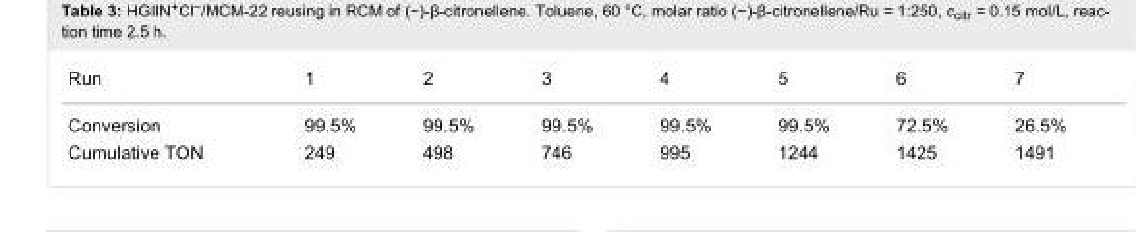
<table><tbody><tr><td>Run</td><td>1</td><td>2</td><td>3</td><td>4</td><td>5</td><td>6</td><td>7</td></tr><tr><td>Conversion</td><td>99.5%</td><td>99.5%</td><td>99.5%</td><td>99.5%</td><td>99.5%</td><td>72.5%</td><td>26.5%</td></tr><tr><td>Cumulative TON</td><td>249</td><td>498</td><td>746</td><td>995</td><td>1244</td><td>1425</td><td>1491</td></tr></tbody></table>